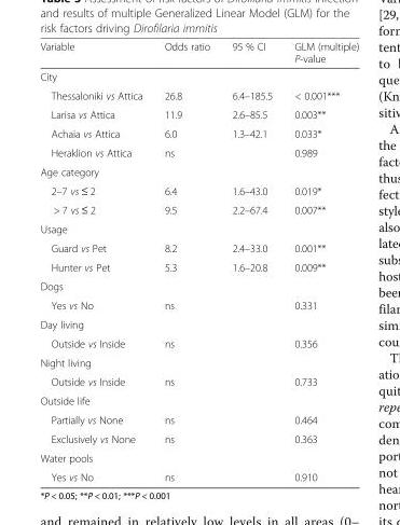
<table><thead><tr><td>Variable</td><td>Odds ratio</td><td>95 % CI</td><td>GLM (multiple) P-value</td></tr></thead><tbody><tr><td colspan="4">City</td></tr><tr><td>Thessaloniki vs Attica</td><td>26.8</td><td>6.4–185.5</td><td>&lt; 0.001***</td></tr><tr><td>Larisa vs Attica</td><td>11.9</td><td>2.6–85.5</td><td>0.003**</td></tr><tr><td>Achaia vs Attica</td><td>6.0</td><td>1.3–42.1</td><td>0.033*</td></tr><tr><td>Heraklion vs Attica</td><td>ns</td><td></td><td>0.989</td></tr><tr><td colspan="4">Age category</td></tr><tr><td>2–7 vs ≤ 2</td><td>6.4</td><td>1.6–43.0</td><td>0.019*</td></tr><tr><td>&gt; 7 vs ≤ 2</td><td>9.5</td><td>2.2–67.4</td><td>0.007**</td></tr><tr><td colspan="4">Usage</td></tr><tr><td>Guard vs Pet</td><td>8.2</td><td>2.4–33.0</td><td>0.001**</td></tr><tr><td>Hunter vs Pet</td><td>5.3</td><td>1.6–20.8</td><td>0.009**</td></tr><tr><td colspan="4">Dogs</td></tr><tr><td>Yes vs No</td><td>ns</td><td></td><td>0.331</td></tr><tr><td colspan="4">Day living</td></tr><tr><td>Outside vs Inside</td><td>ns</td><td></td><td>0.356</td></tr><tr><td colspan="4">Night living</td></tr><tr><td>Outside vs Inside</td><td>ns</td><td></td><td>0.733</td></tr><tr><td colspan="4">Outside life</td></tr><tr><td>Partially vs None</td><td>ns</td><td></td><td>0.464</td></tr><tr><td>Exclusively vs None</td><td>ns</td><td></td><td>0.363</td></tr><tr><td colspan="4">Water pools</td></tr><tr><td>Yes vs No</td><td>ns</td><td></td><td>0.910</td></tr></tbody></table>